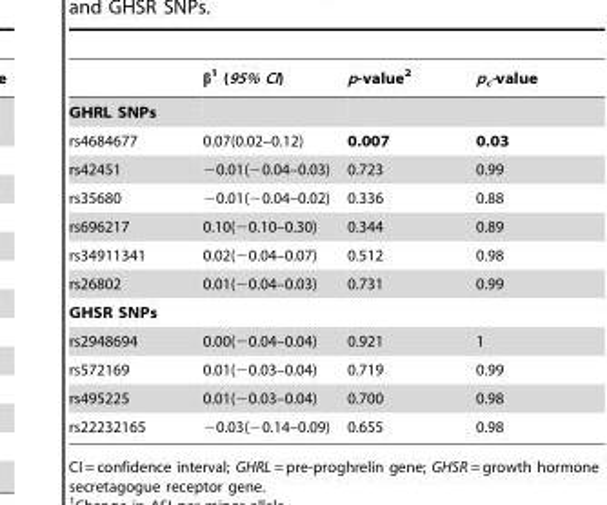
<table><thead><tr><td></td><td>β<sup>1</sup> (95% CI)</td><td>p-value<sup>2</sup></td><td>p<sub>c</sub>-value</td></tr></thead><tbody><tr><td colspan="4">GHRL SNPs</td></tr><tr><td>rs4684677</td><td>0.07(0.02–0.12)</td><td>0.007</td><td>0.03</td></tr><tr><td>rs42451</td><td>−0.01(−0.04–0.03)</td><td>0.723</td><td>0.99</td></tr><tr><td>rs35680</td><td>−0.01(−0.04–0.02)</td><td>0.336</td><td>0.88</td></tr><tr><td>rs696217</td><td>0.10(−0.10–0.30)</td><td>0.344</td><td>0.89</td></tr><tr><td>rs34911341</td><td>0.02(−0.04–0.07)</td><td>0.512</td><td>0.98</td></tr><tr><td>rs26802</td><td>0.01(−0.04–0.03)</td><td>0.731</td><td>0.99</td></tr><tr><td colspan="4">GHSR SNPs</td></tr><tr><td>rs2948694</td><td>0.00(−0.04–0.04)</td><td>0.921</td><td>1</td></tr><tr><td>rs572169</td><td>0.01(−0.03–0.04)</td><td>0.719</td><td>0.99</td></tr><tr><td>rs495225</td><td>0.01(−0.03–0.04)</td><td>0.700</td><td>0.98</td></tr><tr><td>rs22232165</td><td>−0.03(−0.14–0.09)</td><td>0.655</td><td>0.98</td></tr></tbody></table>